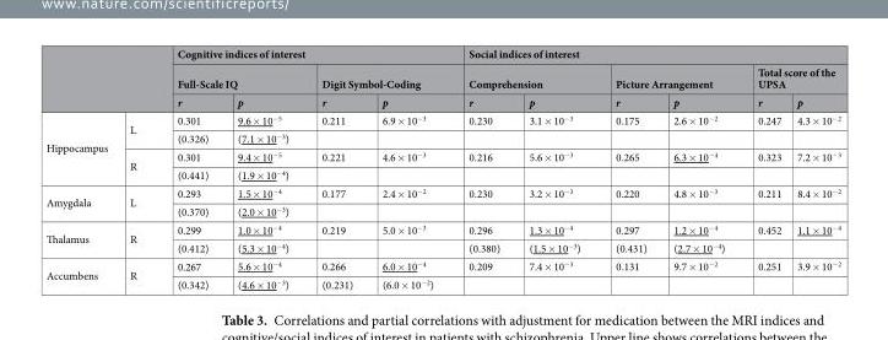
<table><thead><tr><td rowspan="3"></td><td rowspan="3"></td><td colspan="4">Cognitive indices of interest</td><td colspan="6">Social indices of interest</td></tr><tr><td colspan="2">Full-Scale IQ</td><td colspan="2">Digit Symbol-Coding</td><td colspan="2">Comprehension</td><td colspan="2">Picture Arrangement</td><td colspan="2">Total score of the UPSA</td></tr><tr><td>r</td><td>p</td><td>r</td><td>p</td><td>r</td><td>p</td><td>r</td><td>p</td><td>r</td><td>p</td></tr></thead><tbody><tr><td rowspan="4">Hippocampus</td><td rowspan="2">L</td><td>0.301</td><td>9.6 × 10<sup>−5</sup></td><td>0.211</td><td>6.9 × 10<sup>−3</sup></td><td>0.230</td><td>3.1 × 10<sup>−3</sup></td><td>0.175</td><td>2.6 × 10<sup>−2</sup></td><td>0.247</td><td>4.3 × 10<sup>−2</sup></td></tr><tr><td>(0.326)</td><td>(7.1 × 10<sup>−3</sup>)</td><td></td><td></td><td></td><td></td><td></td><td></td><td></td><td></td></tr><tr><td rowspan="2">R</td><td>0.301</td><td>9.4 × 10<sup>−5</sup></td><td>0.221</td><td>4.6 × 10<sup>−3</sup></td><td>0.216</td><td>5.6 × 10<sup>−3</sup></td><td>0.265</td><td>6.3 × 10<sup>−4</sup></td><td>0.323</td><td>7.2 × 10<sup>−3</sup></td></tr><tr><td>(0.441)</td><td>(1.9 × 10<sup>−4</sup>)</td><td></td><td></td><td></td><td></td><td></td><td></td><td></td><td></td></tr><tr><td rowspan="2">Amygdala</td><td rowspan="2">L</td><td>0.293</td><td>1.5 × 10<sup>−4</sup></td><td>0.177</td><td>2.4 × 10<sup>−2</sup></td><td>0.230</td><td>3.2 × 10<sup>−3</sup></td><td>0.220</td><td>4.8 × 10<sup>−3</sup></td><td>0.211</td><td>8.4 × 10<sup>−2</sup></td></tr><tr><td>(0.370)</td><td>(2.0 × 10<sup>−3</sup>)</td><td></td><td></td><td></td><td></td><td></td><td></td><td></td><td></td></tr><tr><td rowspan="2">Thalamus</td><td rowspan="2">R</td><td>0.299</td><td>1.0 × 10<sup>−4</sup></td><td>0.219</td><td>5.0 × 10<sup>−3</sup></td><td>0.296</td><td>1.3 × 10<sup>−4</sup></td><td>0.297</td><td>1.2 × 10<sup>−4</sup></td><td>0.452</td><td>1.1 × 10<sup>−4</sup></td></tr><tr><td>(0.412)</td><td>(5.3 × 10<sup>−4</sup>)</td><td></td><td></td><td>(0.380)</td><td>(1.5 × 10<sup>−3</sup>)</td><td>(0.431)</td><td>(2.7 × 10<sup>−4</sup>)</td><td></td><td></td></tr><tr><td rowspan="2">Accumbens</td><td rowspan="2">R</td><td>0.267</td><td>5.6 × 10<sup>−4</sup></td><td>0.266</td><td>6.0 × 10<sup>−4</sup></td><td>0.209</td><td>7.4 × 10<sup>−3</sup></td><td>0.131</td><td>9.7 × 10<sup>−2</sup></td><td>0.251</td><td>3.9 × 10<sup>−2</sup></td></tr><tr><td>(0.342)</td><td>(4.6 × 10<sup>−3</sup>)</td><td>(0.231)</td><td>(6.0 × 10<sup>−2</sup>)</td><td></td><td></td><td></td><td></td><td></td><td></td></tr></tbody></table>